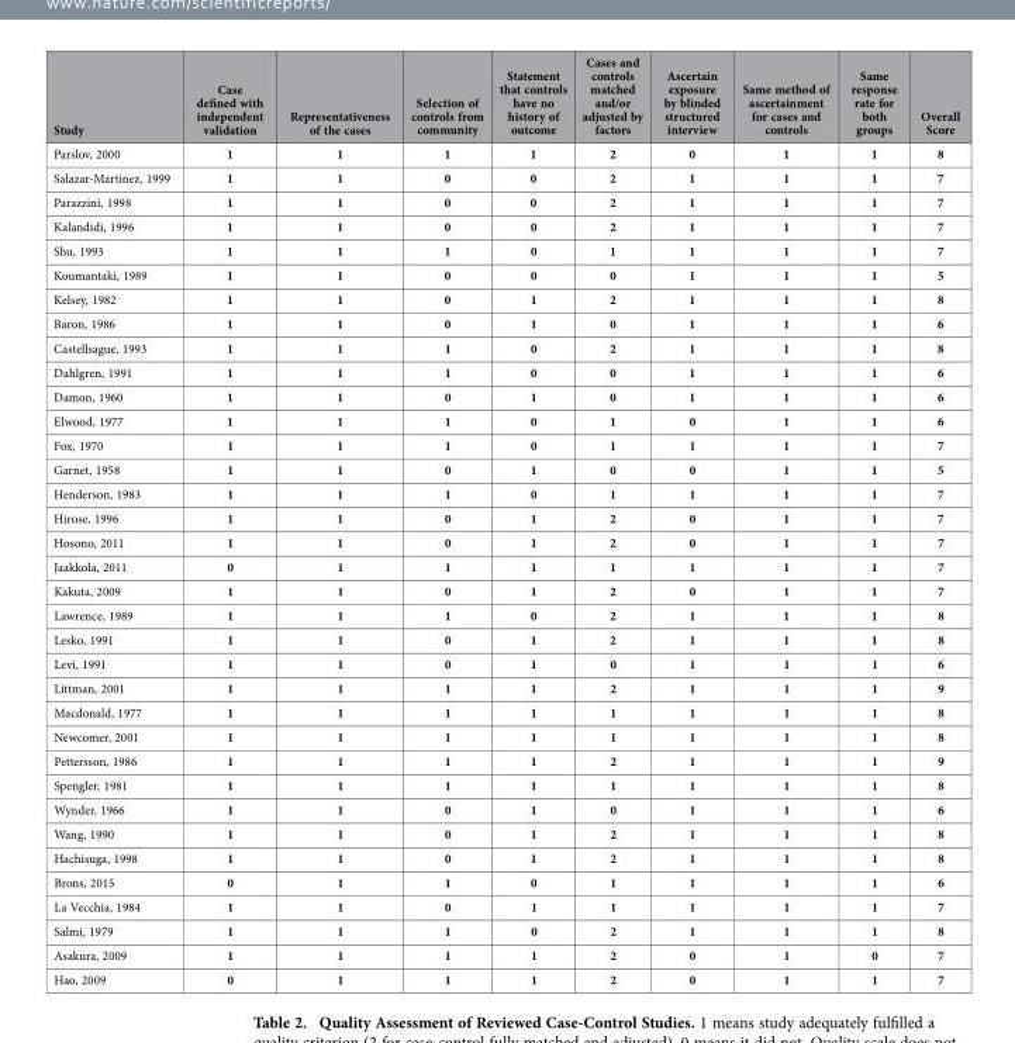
<table><thead><tr><td>Study</td><td>Case defined with independent validation</td><td>Representativeness of the cases</td><td>Selection of controls from community</td><td>Statement that controls have no history of outcome</td><td>Cases and controls matched and/or adjusted by factors</td><td>Ascertain exposure by blinded structured interview</td><td>Same method of ascertainment for cases and controls</td><td>Same response rate for both groups</td><td>Overall Score</td></tr></thead><tbody><tr><td>Parslov, 2000</td><td>1</td><td>1</td><td>1</td><td>1</td><td>2</td><td>0</td><td>1</td><td>1</td><td>8</td></tr><tr><td>Salazar-Martinez, 1999</td><td>1</td><td>1</td><td>0</td><td>0</td><td>2</td><td>1</td><td>1</td><td>1</td><td>7</td></tr><tr><td>Parazzini, 1998</td><td>1</td><td>1</td><td>0</td><td>0</td><td>2</td><td>1</td><td>1</td><td>1</td><td>7</td></tr><tr><td>Kalandidi, 1996</td><td>1</td><td>1</td><td>0</td><td>0</td><td>2</td><td>1</td><td>1</td><td>1</td><td>7</td></tr><tr><td>Shu, 1993</td><td>1</td><td>1</td><td>1</td><td>0</td><td>1</td><td>1</td><td>1</td><td>1</td><td>7</td></tr><tr><td>Koumantaki, 1989</td><td>1</td><td>1</td><td>0</td><td>0</td><td>0</td><td>1</td><td>1</td><td>1</td><td>5</td></tr><tr><td>Kelsey, 1982</td><td>1</td><td>1</td><td>0</td><td>1</td><td>2</td><td>1</td><td>1</td><td>1</td><td>8</td></tr><tr><td>Baron, 1986</td><td>1</td><td>1</td><td>0</td><td>1</td><td>0</td><td>1</td><td>1</td><td>1</td><td>6</td></tr><tr><td>Castellsague, 1993</td><td>1</td><td>1</td><td>1</td><td>0</td><td>2</td><td>1</td><td>1</td><td>1</td><td>8</td></tr><tr><td>Dahlgren, 1991</td><td>1</td><td>1</td><td>1</td><td>0</td><td>0</td><td>1</td><td>1</td><td>1</td><td>6</td></tr><tr><td>Damon, 1960</td><td>1</td><td>1</td><td>0</td><td>1</td><td>0</td><td>1</td><td>1</td><td>1</td><td>6</td></tr><tr><td>Elwood, 1977</td><td>1</td><td>1</td><td>1</td><td>0</td><td>1</td><td>0</td><td>1</td><td>1</td><td>6</td></tr><tr><td>Fox, 1970</td><td>1</td><td>1</td><td>1</td><td>0</td><td>1</td><td>1</td><td>1</td><td>1</td><td>7</td></tr><tr><td>Garnet, 1958</td><td>1</td><td>1</td><td>0</td><td>1</td><td>0</td><td>0</td><td>1</td><td>1</td><td>5</td></tr><tr><td>Henderson, 1983</td><td>1</td><td>1</td><td>1</td><td>0</td><td>1</td><td>1</td><td>1</td><td>1</td><td>7</td></tr><tr><td>Hirose, 1996</td><td>1</td><td>1</td><td>0</td><td>1</td><td>2</td><td>0</td><td>1</td><td>1</td><td>7</td></tr><tr><td>Hosono, 2011</td><td>1</td><td>1</td><td>0</td><td>1</td><td>2</td><td>0</td><td>1</td><td>1</td><td>7</td></tr><tr><td>Jaakkola, 2011</td><td>0</td><td>1</td><td>1</td><td>1</td><td>1</td><td>1</td><td>1</td><td>1</td><td>7</td></tr><tr><td>Kakuta, 2009</td><td>1</td><td>1</td><td>0</td><td>1</td><td>2</td><td>0</td><td>1</td><td>1</td><td>7</td></tr><tr><td>Lawrence, 1989</td><td>1</td><td>1</td><td>1</td><td>0</td><td>2</td><td>1</td><td>1</td><td>1</td><td>8</td></tr><tr><td>Lesko, 1991</td><td>1</td><td>1</td><td>0</td><td>1</td><td>2</td><td>1</td><td>1</td><td>1</td><td>8</td></tr><tr><td>Levi, 1991</td><td>1</td><td>1</td><td>0</td><td>1</td><td>0</td><td>1</td><td>1</td><td>1</td><td>6</td></tr><tr><td>Littman, 2001</td><td>1</td><td>1</td><td>1</td><td>1</td><td>2</td><td>1</td><td>1</td><td>1</td><td>9</td></tr><tr><td>Macdonald, 1977</td><td>1</td><td>1</td><td>1</td><td>1</td><td>1</td><td>1</td><td>1</td><td>1</td><td>8</td></tr><tr><td>Newcomer, 2001</td><td>1</td><td>1</td><td>1</td><td>1</td><td>1</td><td>1</td><td>1</td><td>1</td><td>8</td></tr><tr><td>Pettersson, 1986</td><td>1</td><td>1</td><td>1</td><td>1</td><td>2</td><td>1</td><td>1</td><td>1</td><td>9</td></tr><tr><td>Spengler, 1981</td><td>1</td><td>1</td><td>1</td><td>1</td><td>1</td><td>1</td><td>1</td><td>1</td><td>8</td></tr><tr><td>Wynder, 1966</td><td>1</td><td>1</td><td>0</td><td>1</td><td>0</td><td>1</td><td>1</td><td>1</td><td>6</td></tr><tr><td>Wang, 1990</td><td>1</td><td>1</td><td>0</td><td>1</td><td>2</td><td>1</td><td>1</td><td>1</td><td>8</td></tr><tr><td>Hachisuga, 1998</td><td>1</td><td>1</td><td>0</td><td>1</td><td>2</td><td>1</td><td>1</td><td>1</td><td>8</td></tr><tr><td>Brons, 2015</td><td>0</td><td>1</td><td>1</td><td>0</td><td>1</td><td>1</td><td>1</td><td>1</td><td>6</td></tr><tr><td>La Vecchia, 1984</td><td>1</td><td>1</td><td>0</td><td>1</td><td>1</td><td>1</td><td>1</td><td>1</td><td>7</td></tr><tr><td>Salmi, 1979</td><td>1</td><td>1</td><td>1</td><td>0</td><td>2</td><td>1</td><td>1</td><td>1</td><td>8</td></tr><tr><td>Asakura, 2009</td><td>1</td><td>1</td><td>1</td><td>1</td><td>2</td><td>0</td><td>1</td><td>0</td><td>7</td></tr><tr><td>Hao, 2009</td><td>0</td><td>1</td><td>1</td><td>1</td><td>2</td><td>0</td><td>1</td><td>1</td><td>7</td></tr></tbody></table>